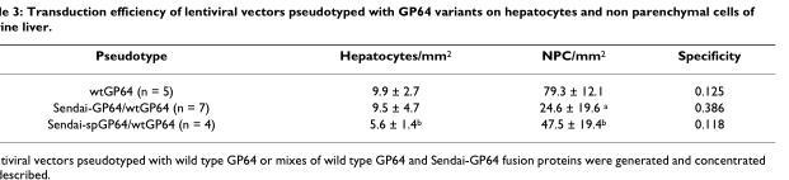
<table><thead><tr><td>Pseudotype</td><td>Hepatocytes/mm<sup>2</sup></td><td>NPC/mm<sup>2</sup></td><td>Specificity</td></tr></thead><tbody><tr><td>wtGP64 (n = 5)</td><td>9.9 ± 2.7</td><td>79.3 ± 12.1</td><td>0.125</td></tr><tr><td>Sendai-GP64/wtGP64 (n = 7)</td><td>9.5 ± 4.7</td><td>24.6 ± 19.6 <sup>a</sup></td><td>0.386</td></tr><tr><td>Sendai-spGP64/wtGP64 (n = 4)</td><td>5.6 ± 1.4<sup>b</sup></td><td>47.5 ± 19.4<sup>b</sup></td><td>0.118</td></tr></tbody></table>